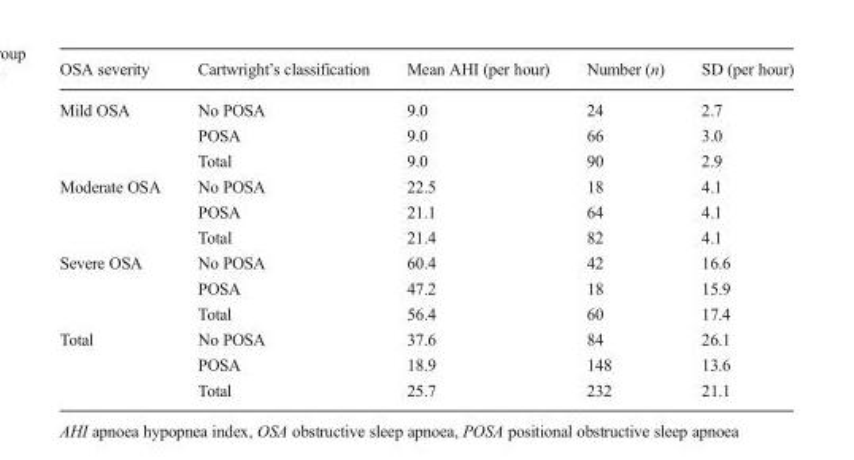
<table><thead><tr><td>OSA severity</td><td>Cartwright’s classification</td><td>Mean AHI (per hour)</td><td>Number (n)</td><td>SD (per hour)</td></tr></thead><tbody><tr><td rowspan="3">Mild OSA</td><td>No POSA</td><td>9.0</td><td>24</td><td>2.7</td></tr><tr><td>POSA</td><td>9.0</td><td>66</td><td>3.0</td></tr><tr><td>Total</td><td>9.0</td><td>90</td><td>2.9</td></tr><tr><td rowspan="3">Moderate OSA</td><td>No POSA</td><td>22.5</td><td>18</td><td>4.1</td></tr><tr><td>POSA</td><td>21.1</td><td>64</td><td>4.1</td></tr><tr><td>Total</td><td>21.4</td><td>82</td><td>4.1</td></tr><tr><td rowspan="3">Severe OSA</td><td>No POSA</td><td>60.4</td><td>42</td><td>16.6</td></tr><tr><td>POSA</td><td>47.2</td><td>18</td><td>15.9</td></tr><tr><td>Total</td><td>56.4</td><td>60</td><td>17.4</td></tr><tr><td rowspan="3">Total</td><td>No POSA</td><td>37.6</td><td>84</td><td>26.1</td></tr><tr><td>POSA</td><td>18.9</td><td>148</td><td>13.6</td></tr><tr><td>Total</td><td>25.7</td><td>232</td><td>21.1</td></tr></tbody></table>